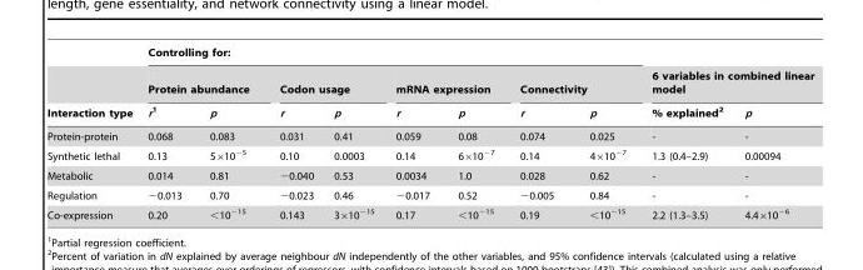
<table><thead><tr><td rowspan="3">Interaction type</td><td colspan="8">Controlling for:</td><td></td><td></td></tr><tr><td colspan="2">Protein abundance</td><td colspan="2">Codon usage</td><td colspan="2">mRNA expression</td><td colspan="2">Connectivity</td><td colspan="2">6 variables in combined linear model</td></tr><tr><td>r1</td><td>p</td><td>r</td><td>p</td><td>r</td><td>p</td><td>r</td><td>p</td><td>% explained<sup>2</sup></td><td>p</td></tr></thead><tbody><tr><td>Protein-protein</td><td>0.068</td><td>0.083</td><td>0.031</td><td>0.41</td><td>0.059</td><td>0.08</td><td>0.074</td><td>0.025</td><td>-</td><td>-</td></tr><tr><td>Synthetic lethal</td><td>0.13</td><td>5×10<sup>−5</sup></td><td>0.10</td><td>0.0003</td><td>0.14</td><td>6×10<sup>−7</sup></td><td>0.14</td><td>4×10<sup>−7</sup></td><td>1.3 (0.4–2.9)</td><td>0.00094</td></tr><tr><td>Metabolic</td><td>0.014</td><td>0.81</td><td>−0.040</td><td>0.53</td><td>0.0034</td><td>1.0</td><td>0.028</td><td>0.62</td><td>-</td><td>-</td></tr><tr><td>Regulation</td><td>−0.013</td><td>0.70</td><td>−0.023</td><td>0.46</td><td>−0.017</td><td>0.52</td><td>−0.005</td><td>0.84</td><td>-</td><td>-</td></tr><tr><td>Co-expression</td><td>0.20</td><td>&lt;10<sup>−15</sup></td><td>0.143</td><td>3×10<sup>−15</sup></td><td>0.17</td><td>&lt;10<sup>−15</sup></td><td>0.19</td><td>&lt;10<sup>−15</sup></td><td>2.2 (1.3–3.5)</td><td>4.4×10<sup>−6</sup></td></tr></tbody></table>